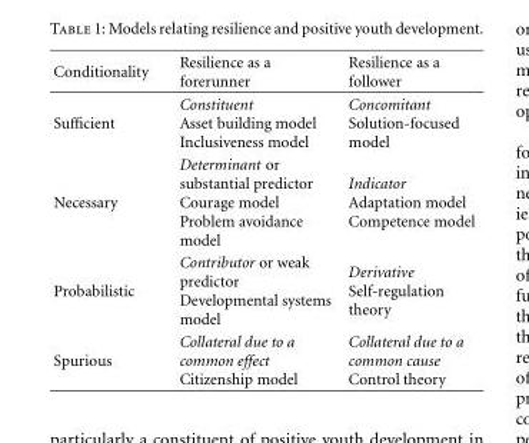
<table><thead><tr><td>Conditionality</td><td>Resilience as a forerunner</td><td>Resilience as a follower</td></tr></thead><tbody><tr><td>Sufficient</td><td>Constituent Asset building model Inclusiveness model</td><td>Concomitant Solution-focused model</td></tr><tr><td>Necessary</td><td>Determinant or substantial predictor Courage model Problem avoidance model</td><td>Indicator Adaptation model Competence model</td></tr><tr><td>Probabilistic</td><td>Contributor or weak predictor Developmental systems model</td><td>Derivative Self-regulation theory</td></tr><tr><td>Spurious</td><td>Collateral due to a common effect Citizenship model</td><td>Collateral due to a common cause Control theory</td></tr></tbody></table>